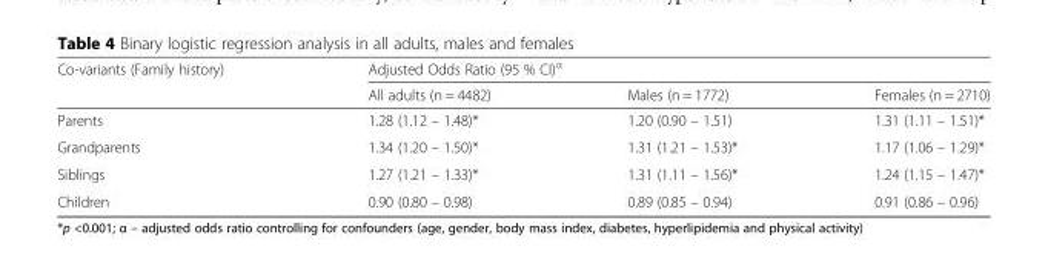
<table><thead><tr><td rowspan="2">Co-variants (Family history)</td><td colspan="3">Adjusted Odds Ratio (95 % CI)<sup>α</sup></td></tr><tr><td>All adults (n = 4482)</td><td>Males (n = 1772)</td><td>Females (n = 2710)</td></tr></thead><tbody><tr><td>Parents</td><td>1.28 (1.12 – 1.48)*</td><td>1.20 (0.90 – 1.51)</td><td>1.31 (1.11 – 1.51)*</td></tr><tr><td>Grandparents</td><td>1.34 (1.20 – 1.50)*</td><td>1.31 (1.21 – 1.53)*</td><td>1.17 (1.06 – 1.29)*</td></tr><tr><td>Siblings</td><td>1.27 (1.21 – 1.33)*</td><td>1.31 (1.11 – 1.56)*</td><td>1.24 (1.15 – 1.47)*</td></tr><tr><td>Children</td><td>0.90 (0.80 – 0.98)</td><td>0.89 (0.85 – 0.94)</td><td>0.91 (0.86 – 0.96)</td></tr></tbody></table>